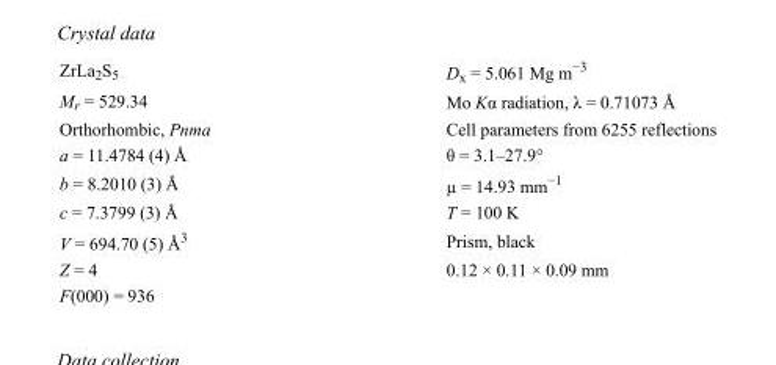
<table><tbody><tr><td>ZrLa<sub>2</sub>S<sub>5</sub></td><td>D<sub>x</sub> = 5.061 Mg m<sup>−3</sup></td></tr><tr><td>M<sub>r</sub> = 529.34</td><td>Mo Kα radiation, λ = 0.71073 Å</td></tr><tr><td>Orthorhombic, Pnma</td><td>Cell parameters from 6255 reflections</td></tr><tr><td>a = 11.4784 (4) Å</td><td>θ = 3.1–27.9°</td></tr><tr><td>b = 8.2010 (3) Å</td><td>µ = 14.93 mm<sup>−1</sup></td></tr><tr><td>c = 7.3799 (3) Å</td><td>T = 100 K</td></tr><tr><td>V = 694.70 (5) Å<sup>3</sup></td><td>Prism, black</td></tr><tr><td>Z = 4</td><td>0.12 × 0.11 × 0.09 mm</td></tr><tr><td>F(000) = 936</td><td></td></tr></tbody></table>